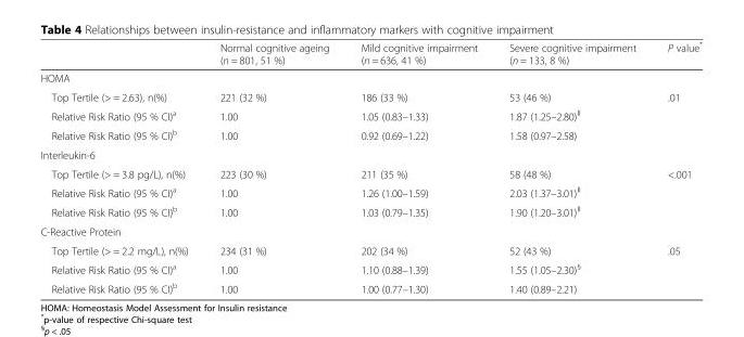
<table><thead><tr><td></td><td>Normal cognitive ageing (n = 801, 51 %)</td><td>Mild cognitive impairment (n = 636, 41 %)</td><td>Severe cognitive impairment (n = 133, 8 %)</td><td>P value*</td></tr></thead><tbody><tr><td colspan="5">HOMA</td></tr><tr><td>Top Tertile (&gt; = 2.63), n(%)</td><td>221 (32 %)</td><td>186 (33 %)</td><td>53 (46 %)</td><td>.01</td></tr><tr><td>Relative Risk Ratio (95 % CI)<sup>a</sup></td><td>1.00</td><td>1.05 (0.83–1.33)</td><td>1.87 (1.25–2.80)<sup>ǁ</sup></td><td></td></tr><tr><td>Relative Risk Ratio (95 % CI)<sup>b</sup></td><td>1.00</td><td>0.92 (0.69–1.22)</td><td>1.58 (0.97–2.58)</td><td></td></tr><tr><td colspan="5">Interleukin-6</td></tr><tr><td>Top Tertile (&gt; = 3.8 pg/L), n(%)</td><td>223 (30 %)</td><td>211 (35 %)</td><td>58 (48 %)</td><td>&lt;.001</td></tr><tr><td>Relative Risk Ratio (95 % CI)<sup>a</sup></td><td>1.00</td><td>1.26 (1.00–1.59)</td><td>2.03 (1.37–3.01)<sup>ǁ</sup></td><td></td></tr><tr><td>Relative Risk Ratio (95 % CI)<sup>b</sup></td><td>1.00</td><td>1.03 (0.79–1.35)</td><td>1.90 (1.20–3.01)<sup>ǁ</sup></td><td></td></tr><tr><td colspan="5">C-Reactive Protein</td></tr><tr><td>Top Tertile (&gt; = 2.2 mg/L), n(%)</td><td>234 (31 %)</td><td>202 (34 %)</td><td>52 (43 %)</td><td>.05</td></tr><tr><td>Relative Risk Ratio (95 % CI)<sup>a</sup></td><td>1.00</td><td>1.10 (0.88–1.39)</td><td>1.55 (1.05–2.30)<sup>§</sup></td><td></td></tr><tr><td>Relative Risk Ratio (95 % CI)<sup>b</sup></td><td>1.00</td><td>1.00 (0.77–1.30)</td><td>1.40 (0.89–2.21)</td><td></td></tr></tbody></table>